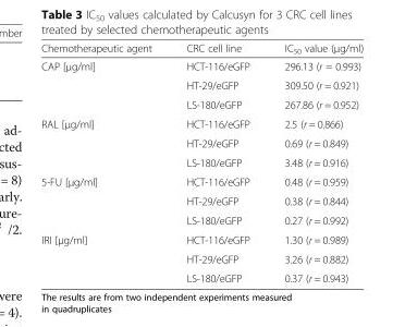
<table><thead><tr><td>Chemotherapeutic agent</td><td>CRC cell line</td><td>IC<sub>50</sub> value (μg/ml)</td></tr></thead><tbody><tr><td rowspan="3">CAP [μg/ml]</td><td>HCT-116/eGFP</td><td>296.13 (r = 0.993)</td></tr><tr><td>HT-29/eGFP</td><td>309.50 (r = 0.921)</td></tr><tr><td>LS-180/eGFP</td><td>267.86 (r = 0.952)</td></tr><tr><td rowspan="3">RAL [μg/ml]</td><td>HCT-116/eGFP</td><td>2.5 (r = 0.866)</td></tr><tr><td>HT-29/eGFP</td><td>0.69 (r = 0.849)</td></tr><tr><td>LS-180/eGFP</td><td>3.48 (r = 0.916)</td></tr><tr><td rowspan="3">5-FU [μg/ml]</td><td>HCT-116/eGFP</td><td>0.48 (r = 0.959)</td></tr><tr><td>HT-29/eGFP</td><td>0.38 (r = 0.844)</td></tr><tr><td>LS-180/eGFP</td><td>0.27 (r = 0.992)</td></tr><tr><td rowspan="3">IRI [μg/ml]</td><td>HCT-116/eGFP</td><td>1.30 (r = 0.989)</td></tr><tr><td>HT-29/eGFP</td><td>3.26 (r = 0.882)</td></tr><tr><td>LS-180/eGFP</td><td>0.37 (r = 0.943)</td></tr></tbody></table>